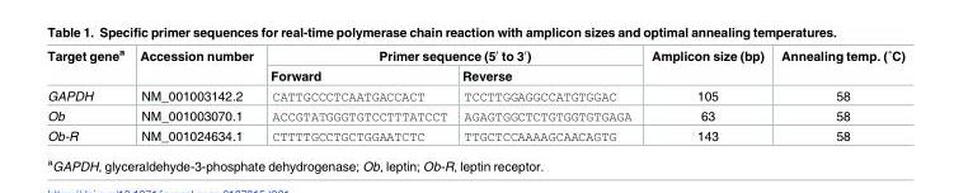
<table><thead><tr><td rowspan="2">Target gene<sup>a</sup></td><td rowspan="2">Accession number</td><td colspan="2">Primer sequence (5′ to 3′)</td><td rowspan="2">Amplicon size (bp)</td><td rowspan="2">Annealing temp. (˚C)</td></tr><tr><td>Forward</td><td>Reverse</td></tr></thead><tbody><tr><td>GAPDH</td><td>NM_001003142.2</td><td>CATTGCCCTCAATGACCACT</td><td>TCCTTGGAGGCCATGTGGAC</td><td>105</td><td>58</td></tr><tr><td>Ob</td><td>NM_001003070.1</td><td>ACCGTATGGGTGTCCTTTATCCT</td><td>AGAGTGGCTCTGTGGTGTGAGA</td><td>63</td><td>58</td></tr><tr><td>Ob-R</td><td>NM_001024634.1</td><td>CTTTTGCCTGCTGGAATCTC</td><td>TTGCTCCAAAAGCAACAGTG</td><td>143</td><td>58</td></tr></tbody></table>